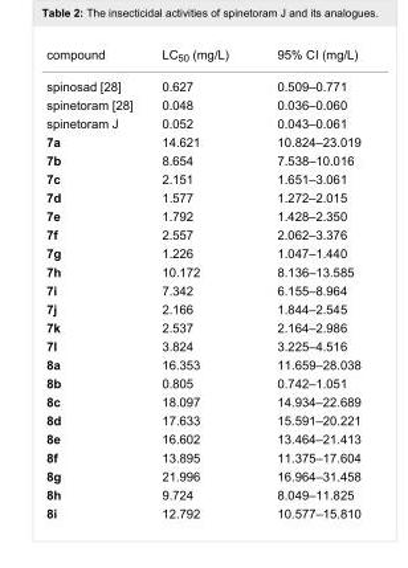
<table><tbody><tr><td>compound</td><td>LC<sub>50</sub> (mg/L)</td><td>95% CI (mg/L)</td></tr><tr><td>spinosad [28]</td><td>0.627</td><td>0.509–0.771</td></tr><tr><td>spinetoram [28]</td><td>0.048</td><td>0.036–0.060</td></tr><tr><td>spinetoram J</td><td>0.052</td><td>0.043–0.061</td></tr><tr><td>7a</td><td>14.621</td><td>10.824–23.019</td></tr><tr><td>7b</td><td>8.654</td><td>7.538–10.016</td></tr><tr><td>7c</td><td>2.151</td><td>1.651–3.061</td></tr><tr><td>7d</td><td>1.577</td><td>1.272–2.015</td></tr><tr><td>7e</td><td>1.792</td><td>1.428–2.350</td></tr><tr><td>7f</td><td>2.557</td><td>2.062–3.376</td></tr><tr><td>7g</td><td>1.226</td><td>1.047–1.440</td></tr><tr><td>7h</td><td>10.172</td><td>8.136–13.585</td></tr><tr><td>7i</td><td>7.342</td><td>6.155–8.964</td></tr><tr><td>7j</td><td>2.166</td><td>1.844–2.545</td></tr><tr><td>7k</td><td>2.537</td><td>2.164–2.986</td></tr><tr><td>7l</td><td>3.824</td><td>3.225–4.516</td></tr><tr><td>8a</td><td>16.353</td><td>11.659–28.038</td></tr><tr><td>8b</td><td>0.805</td><td>0.742–1.051</td></tr><tr><td>8c</td><td>18.097</td><td>14.934–22.689</td></tr><tr><td>8d</td><td>17.633</td><td>15.591–20.221</td></tr><tr><td>8e</td><td>16.602</td><td>13.464–21.413</td></tr><tr><td>8f</td><td>13.895</td><td>11.375–17.604</td></tr><tr><td>8g</td><td>21.996</td><td>16.964–31.458</td></tr><tr><td>8h</td><td>9.724</td><td>8.049–11.825</td></tr><tr><td>8i</td><td>12.792</td><td>10.577–15.810</td></tr></tbody></table>